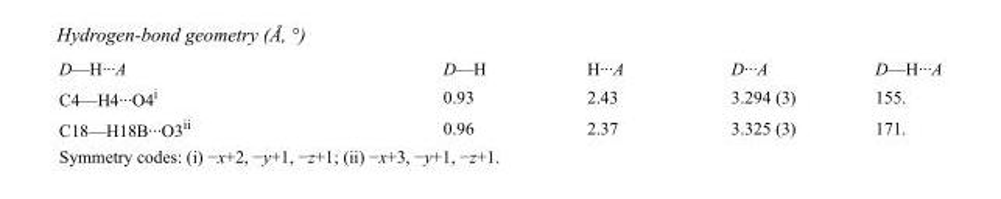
<table><tbody><tr><td>D—H···A</td><td>D—H</td><td>H···A</td><td>D···A</td><td>D—H···A</td></tr><tr><td>C4—H4···O4<sup>i</sup></td><td>0.93</td><td>2.43</td><td>3.294 (3)</td><td>155.</td></tr><tr><td>C18—H18B···O3<sup>ii</sup></td><td>0.96</td><td>2.37</td><td>3.325 (3)</td><td>171.</td></tr></tbody></table>